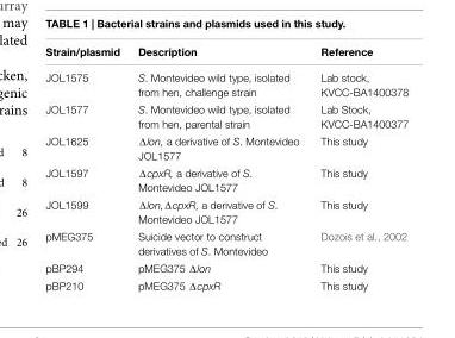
<table><thead><tr><td>Strain/plasmid</td><td>Description</td><td>Reference</td></tr></thead><tbody><tr><td>JOL1575</td><td>S. Montevideo wild type, isolated from hen, challenge strain</td><td>Lab stock, KVCC-BA1400378</td></tr><tr><td>JOL1577</td><td>S. Montevideo wild type, isolated from hen, parental strain</td><td>Lab Stock, KVCC-BA1400377</td></tr><tr><td>JOL1625</td><td>Δlon, a derivative of S. Montevideo JOL1577</td><td>This study</td></tr><tr><td>JOL1597</td><td>ΔcpxR, a derivative of S. Montevideo JOL1577</td><td>This study</td></tr><tr><td>JOL1599</td><td>Δlon,ΔcpxR, a derivative of S. Montevideo JOL1577</td><td>This study</td></tr><tr><td>pMEG375</td><td>Suicide vector to construct derivatives of S. Montevideo</td><td>Dozois et al., 2002</td></tr><tr><td>pBP294</td><td>pMEG375 Δlon</td><td>This study</td></tr><tr><td>pBP210</td><td>pMEG375 ΔcpxR</td><td>This study</td></tr></tbody></table>